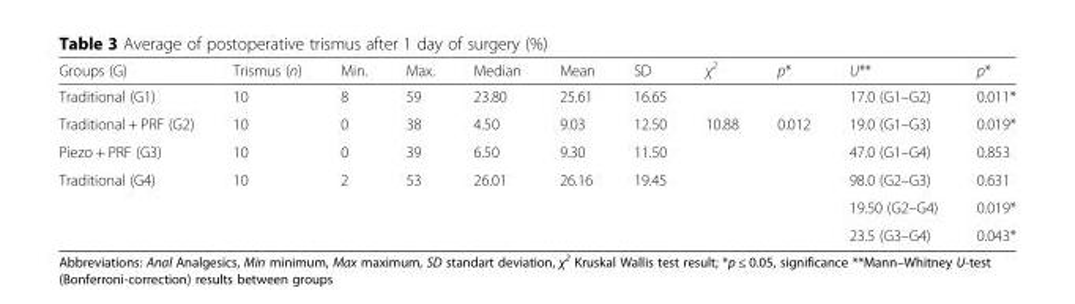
<table><thead><tr><td>Groups (G)</td><td>Trismus (n)</td><td>Min.</td><td>Max.</td><td>Median</td><td>Mean</td><td>SD</td><td>χ<sup>2</sup></td><td>p*</td><td>U**</td><td>p*</td></tr></thead><tbody><tr><td>Traditional (G1)</td><td>10</td><td>8</td><td>59</td><td>23.80</td><td>25.61</td><td>16.65</td><td></td><td></td><td>17.0 (G1–G2)</td><td>0.011*</td></tr><tr><td>Traditional + PRF (G2)</td><td>10</td><td>0</td><td>38</td><td>4.50</td><td>9.03</td><td>12.50</td><td>10.88</td><td>0.012</td><td>19.0 (G1–G3)</td><td>0.019*</td></tr><tr><td>Piezo + PRF (G3)</td><td>10</td><td>0</td><td>39</td><td>6.50</td><td>9.30</td><td>11.50</td><td></td><td></td><td>47.0 (G1–G4)</td><td>0.853</td></tr><tr><td rowspan="3">Traditional (G4)</td><td>10</td><td>2</td><td>53</td><td>26.01</td><td>26.16</td><td>19.45</td><td></td><td></td><td>98.0 (G2–G3)</td><td>0.631</td></tr><tr><td></td><td></td><td></td><td></td><td></td><td></td><td></td><td></td><td>19.50 (G2–G4)</td><td>0.019*</td></tr><tr><td></td><td></td><td></td><td></td><td></td><td></td><td></td><td></td><td>23.5 (G3–G4)</td><td>0.043*</td></tr></tbody></table>